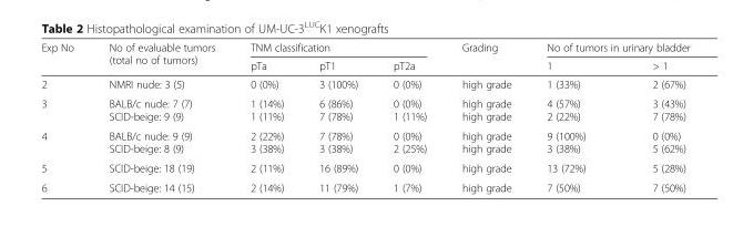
<table><thead><tr><td rowspan="2">Exp No</td><td rowspan="2">No of evaluable tumors (total no of tumors)</td><td colspan="3">TNM classification</td><td rowspan="2">Grading</td><td colspan="2">No of tumors in urinary bladder</td></tr><tr><td>pTa</td><td>pT1</td><td>pT2a</td><td>1</td><td>&gt; 1</td></tr></thead><tbody><tr><td>2</td><td>NMRI nude: 3 (5)</td><td>0 (0%)</td><td>3 (100%)</td><td>0 (0%)</td><td>high grade</td><td>1 (33%)</td><td>2 (67%)</td></tr><tr><td>3</td><td>BALB/c nude: 7 (7) SCID-beige: 9 (9)</td><td>1 (14%) 1 (11%)</td><td>6 (86%) 7 (78%)</td><td>0 (0%) 1 (11%)</td><td>high grade high grade</td><td>4 (57%) 2 (22%)</td><td>3 (43%) 7 (78%)</td></tr><tr><td>4</td><td>BALB/c nude: 9 (9) SCID-beige: 8 (9)</td><td>2 (22%) 3 (38%)</td><td>7 (78%) 3 (38%)</td><td>0 (0%) 2 (25%)</td><td>high grade high grade</td><td>9 (100%) 3 (38%)</td><td>0 (0%) 5 (62%)</td></tr><tr><td>5</td><td>SCID-beige: 18 (19)</td><td>2 (11%)</td><td>16 (89%)</td><td>0 (0%)</td><td>high grade</td><td>13 (72%)</td><td>5 (28%)</td></tr><tr><td>6</td><td>SCID-beige: 14 (15)</td><td>2 (14%)</td><td>11 (79%)</td><td>1 (7%)</td><td>high grade</td><td>7 (50%)</td><td>7 (50%)</td></tr></tbody></table>